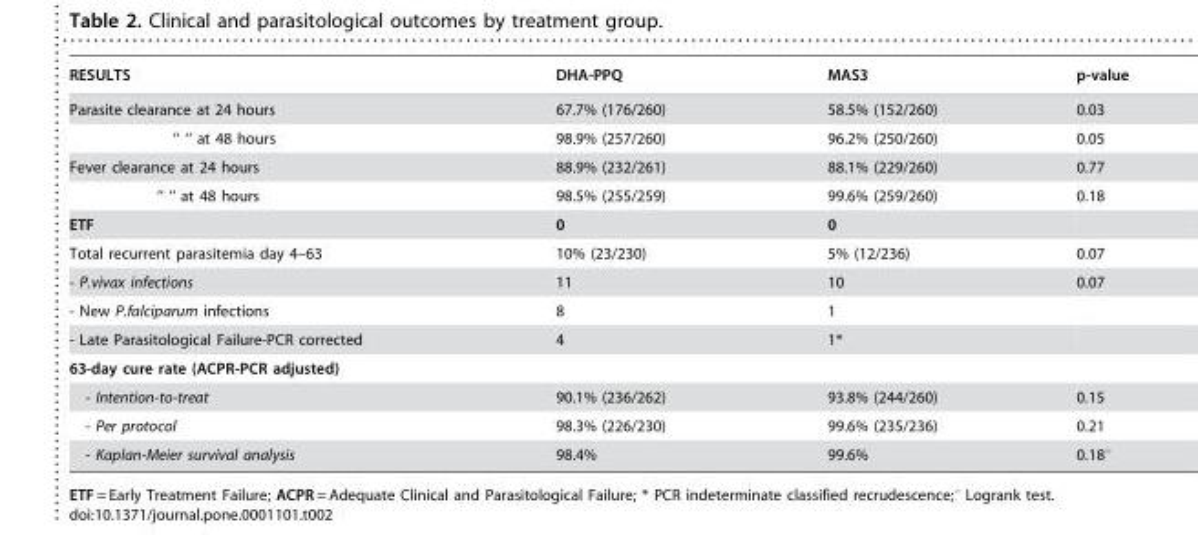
<table><thead><tr><td>RESULTS</td><td>DHA-PPQ</td><td>MAS3</td><td>p-value</td></tr></thead><tbody><tr><td>Parasite clearance at 24 hours</td><td>67.7% (176/260)</td><td>58.5% (152/260)</td><td>0.03</td></tr><tr><td>‘‘ ‘‘ at 48 hours</td><td>98.9% (257/260)</td><td>96.2% (250/260)</td><td>0.05</td></tr><tr><td>Fever clearance at 24 hours</td><td>88.9% (232/261)</td><td>88.1% (229/260)</td><td>0.77</td></tr><tr><td>‘‘ ‘‘ at 48 hours</td><td>98.5% (255/259)</td><td>99.6% (259/260)</td><td>0.18</td></tr><tr><td>ETF</td><td>0</td><td>0</td><td></td></tr><tr><td>Total recurrent parasitemia day 4–63</td><td>10% (23/230)</td><td>5% (12/236)</td><td>0.07</td></tr><tr><td>- P.vivax infections</td><td>11</td><td>10</td><td>0.07</td></tr><tr><td>- New P.falciparum infections</td><td>8</td><td>1</td><td></td></tr><tr><td>- Late Parasitological Failure-PCR corrected</td><td>4</td><td>1*</td><td></td></tr><tr><td colspan="4">63-day cure rate (ACPR-PCR adjusted)</td></tr><tr><td>- Intention-to-treat</td><td>90.1% (236/262)</td><td>93.8% (244/260)</td><td>0.15</td></tr><tr><td>- Per protocol</td><td>98.3% (226/230)</td><td>99.6% (235/236)</td><td>0.21</td></tr><tr><td>- Kaplan-Meier survival analysis</td><td>98.4%</td><td>99.6%</td><td>0.18°</td></tr></tbody></table>